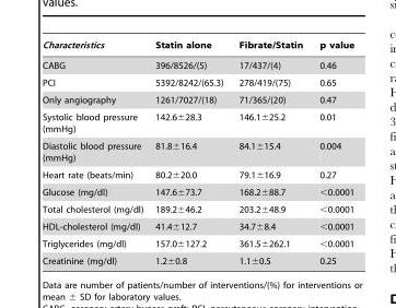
<table><thead><tr><td>Characteristics</td><td>Statin alone</td><td>Fibrate/Statin</td><td>p value</td></tr></thead><tbody><tr><td>CABG</td><td>396/8526/(5)</td><td>17/437/(4)</td><td>0.46</td></tr><tr><td>PCI</td><td>5392/8242/(65.3)</td><td>278/419/(75)</td><td>0.65</td></tr><tr><td>Only angiography</td><td>1261/7027/(18)</td><td>71/365/(20)</td><td>0.47</td></tr><tr><td>Systolic blood pressure (mmHg)</td><td>142.6±28.3</td><td>146.1±25.2</td><td>0.01</td></tr><tr><td>Diastolic blood pressure (mmHg)</td><td>81.8±16.4</td><td>84.1±15.4</td><td>0.004</td></tr><tr><td>Heart rate (beats/min)</td><td>80.2±20.0</td><td>79.1±16.9</td><td>0.27</td></tr><tr><td>Glucose (mg/dl)</td><td>147.6±73.7</td><td>168.2±88.7</td><td>&lt;0.0001</td></tr><tr><td>Total cholesterol (mg/dl)</td><td>189.2±46.2</td><td>203.2±48.9</td><td>&lt;0.0001</td></tr><tr><td>HDL-cholesterol (mg/dl)</td><td>41.4±12.7</td><td>34.7±8.4</td><td>&lt;0.0001</td></tr><tr><td>Triglycerides (mg/dl)</td><td>157.0±127.2</td><td>361.5±262.1</td><td>&lt;0.0001</td></tr><tr><td>Creatinine (mg/dl)</td><td>1.2±0.8</td><td>1.1±0.5</td><td>0.25</td></tr></tbody></table>